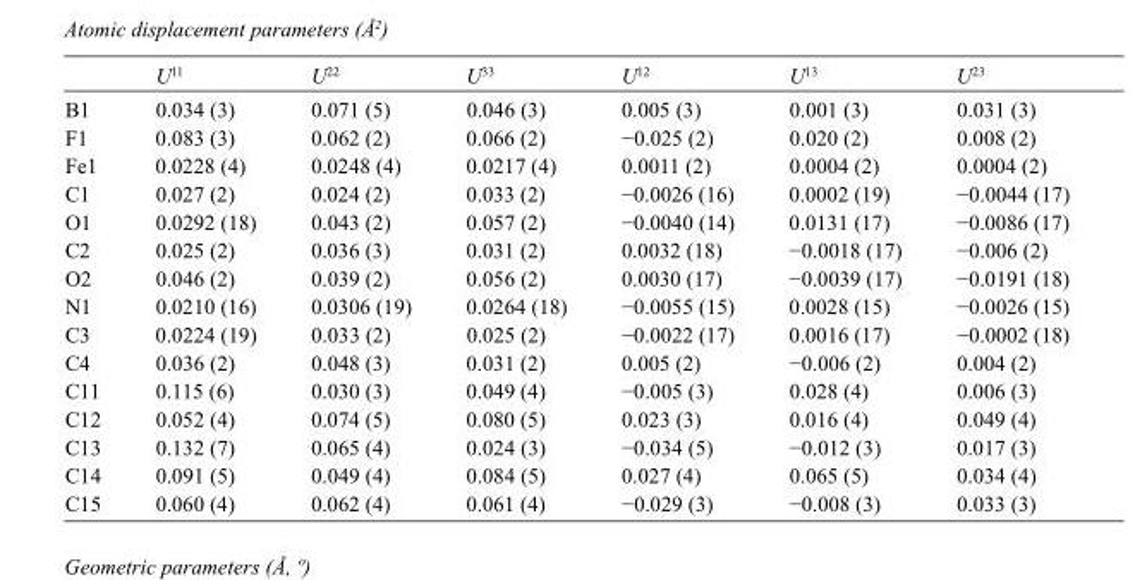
<table><thead><tr><td></td><td>U<sup>11</sup></td><td>U<sup>22</sup></td><td>U<sup>33</sup></td><td>U<sup>12</sup></td><td>U<sup>13</sup></td><td>U<sup>23</sup></td></tr></thead><tbody><tr><td>B1</td><td>0.034 (3)</td><td>0.071 (5)</td><td>0.046 (3)</td><td>0.005 (3)</td><td>0.001 (3)</td><td>0.031 (3)</td></tr><tr><td>F1</td><td>0.083 (3)</td><td>0.062 (2)</td><td>0.066 (2)</td><td>−0.025 (2)</td><td>0.020 (2)</td><td>0.008 (2)</td></tr><tr><td>Fe1</td><td>0.0228 (4)</td><td>0.0248 (4)</td><td>0.0217 (4)</td><td>0.0011 (2)</td><td>0.0004 (2)</td><td>0.0004 (2)</td></tr><tr><td>C1</td><td>0.027 (2)</td><td>0.024 (2)</td><td>0.033 (2)</td><td>−0.0026 (16)</td><td>0.0002 (19)</td><td>−0.0044 (17)</td></tr><tr><td>O1</td><td>0.0292 (18)</td><td>0.043 (2)</td><td>0.057 (2)</td><td>−0.0040 (14)</td><td>0.0131 (17)</td><td>−0.0086 (17)</td></tr><tr><td>C2</td><td>0.025 (2)</td><td>0.036 (3)</td><td>0.031 (2)</td><td>0.0032 (18)</td><td>−0.0018 (17)</td><td>−0.006 (2)</td></tr><tr><td>O2</td><td>0.046 (2)</td><td>0.039 (2)</td><td>0.056 (2)</td><td>0.0030 (17)</td><td>−0.0039 (17)</td><td>−0.0191 (18)</td></tr><tr><td>N1</td><td>0.0210 (16)</td><td>0.0306 (19)</td><td>0.0264 (18)</td><td>−0.0055 (15)</td><td>0.0028 (15)</td><td>−0.0026 (15)</td></tr><tr><td>C3</td><td>0.0224 (19)</td><td>0.033 (2)</td><td>0.025 (2)</td><td>−0.0022 (17)</td><td>0.0016 (17)</td><td>−0.0002 (18)</td></tr><tr><td>C4</td><td>0.036 (2)</td><td>0.048 (3)</td><td>0.031 (2)</td><td>0.005 (2)</td><td>−0.006 (2)</td><td>0.004 (2)</td></tr><tr><td>C11</td><td>0.115 (6)</td><td>0.030 (3)</td><td>0.049 (4)</td><td>−0.005 (3)</td><td>0.028 (4)</td><td>0.006 (3)</td></tr><tr><td>C12</td><td>0.052 (4)</td><td>0.074 (5)</td><td>0.080 (5)</td><td>0.023 (3)</td><td>0.016 (4)</td><td>0.049 (4)</td></tr><tr><td>C13</td><td>0.132 (7)</td><td>0.065 (4)</td><td>0.024 (3)</td><td>−0.034 (5)</td><td>−0.012 (3)</td><td>0.017 (3)</td></tr><tr><td>C14</td><td>0.091 (5)</td><td>0.049 (4)</td><td>0.084 (5)</td><td>0.027 (4)</td><td>0.065 (5)</td><td>0.034 (4)</td></tr><tr><td>C15</td><td>0.060 (4)</td><td>0.062 (4)</td><td>0.061 (4)</td><td>−0.029 (3)</td><td>−0.008 (3)</td><td>0.033 (3)</td></tr></tbody></table>